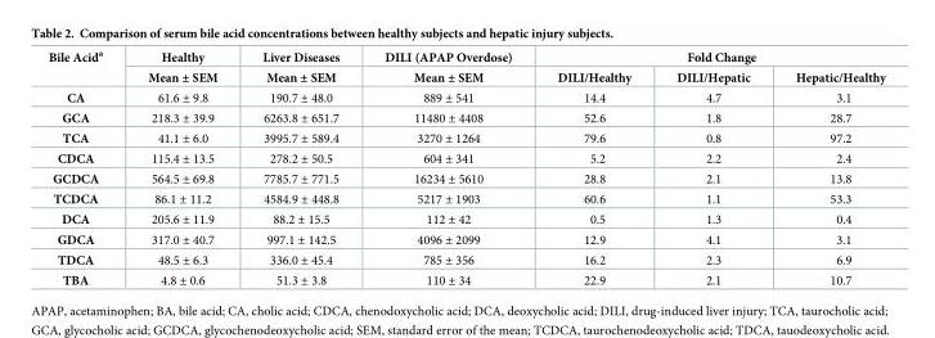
<table><thead><tr><td rowspan="2">Bile Acid<sup>a</sup></td><td rowspan="2">Healthy Mean ± SEM</td><td rowspan="2">Liver Diseases Mean ± SEM</td><td rowspan="2">DILI (APAP Overdose) Mean ± SEM</td><td colspan="3">Fold Change</td></tr><tr><td>DILI/Healthy</td><td>DILI/Hepatic</td><td>Hepatic/Healthy</td></tr></thead><tbody><tr><td>CA</td><td>61.6 ± 9.8</td><td>190.7 ± 48.0</td><td>889 ± 541</td><td>14.4</td><td>4.7</td><td>3.1</td></tr><tr><td>GCA</td><td>218.3 ± 39.9</td><td>6263.8 ± 651.7</td><td>11480 ± 4408</td><td>52.6</td><td>1.8</td><td>28.7</td></tr><tr><td>TCA</td><td>41.1 ± 6.0</td><td>3995.7 ± 589.4</td><td>3270 ± 1264</td><td>79.6</td><td>0.8</td><td>97.2</td></tr><tr><td>CDCA</td><td>115.4 ± 13.5</td><td>278.2 ± 50.5</td><td>604 ± 341</td><td>5.2</td><td>2.2</td><td>2.4</td></tr><tr><td>GCDCA</td><td>564.5 ± 69.8</td><td>7785.7 ± 771.5</td><td>16234 ± 5610</td><td>28.8</td><td>2.1</td><td>13.8</td></tr><tr><td>TCDCA</td><td>86.1 ± 11.2</td><td>4584.9 ± 448.8</td><td>5217 ± 1903</td><td>60.6</td><td>1.1</td><td>53.3</td></tr><tr><td>DCA</td><td>205.6 ± 11.9</td><td>88.2 ± 15.5</td><td>112 ± 42</td><td>0.5</td><td>1.3</td><td>0.4</td></tr><tr><td>GDCA</td><td>317.0 ± 40.7</td><td>997.1 ± 142.5</td><td>4096 ± 2099</td><td>12.9</td><td>4.1</td><td>3.1</td></tr><tr><td>TDCA</td><td>48.5 ± 6.3</td><td>336.0 ± 45.4</td><td>785 ± 356</td><td>16.2</td><td>2.3</td><td>6.9</td></tr><tr><td>TBA</td><td>4.8 ± 0.6</td><td>51.3 ± 3.8</td><td>110 ± 34</td><td>22.9</td><td>2.1</td><td>10.7</td></tr></tbody></table>